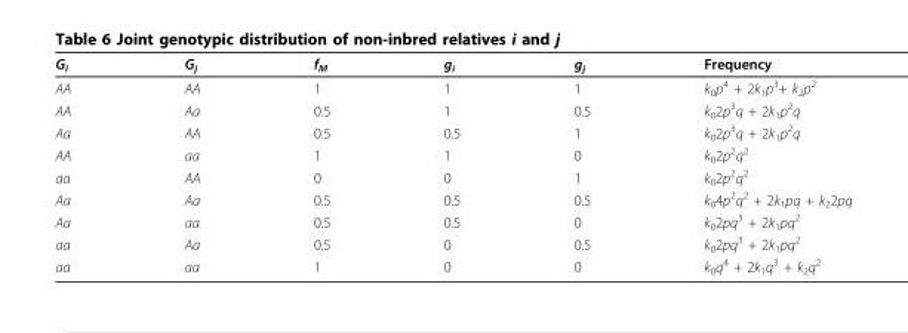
<table><thead><tr><td>G<sub>i</sub></td><td>G<sub>j</sub></td><td>f<sub>M</sub></td><td>g<sub>i</sub></td><td>g<sub>j</sub></td><td>Frequency</td></tr></thead><tbody><tr><td>AA</td><td>AA</td><td>1</td><td>1</td><td>1</td><td>k<sub>0</sub>p<sup>4</sup> + 2k<sub>1</sub>p<sup>3</sup>+ k<sub>2</sub>p<sup>2</sup></td></tr><tr><td>AA</td><td>Aa</td><td>0.5</td><td>1</td><td>0.5</td><td>k<sub>0</sub>2p<sup>3</sup>q + 2k<sub>1</sub>p<sup>2</sup>q</td></tr><tr><td>Aa</td><td>AA</td><td>0.5</td><td>0.5</td><td>1</td><td>k<sub>0</sub>2p<sup>3</sup>q + 2k<sub>1</sub>p<sup>2</sup>q</td></tr><tr><td>AA</td><td>aa</td><td>1</td><td>1</td><td>0</td><td>k<sub>0</sub>2p<sup>2</sup>q<sup>2</sup></td></tr><tr><td>aa</td><td>AA</td><td>0</td><td>0</td><td>1</td><td>k<sub>0</sub>2p<sup>2</sup>q<sup>2</sup></td></tr><tr><td>Aa</td><td>Aa</td><td>0.5</td><td>0.5</td><td>0.5</td><td>k<sub>0</sub>4p<sup>2</sup>q<sup>2</sup> + 2k<sub>1</sub>pq + k<sub>2</sub>2pq</td></tr><tr><td>Aa</td><td>aa</td><td>0.5</td><td>0.5</td><td>0</td><td>k<sub>0</sub>2pq<sup>3</sup> + 2k<sub>1</sub>pq<sup>2</sup></td></tr><tr><td>aa</td><td>Aa</td><td>0.5</td><td>0</td><td>0.5</td><td>k<sub>0</sub>2pq<sup>3</sup> + 2k<sub>1</sub>pq<sup>2</sup></td></tr><tr><td>aa</td><td>aa</td><td>1</td><td>0</td><td>0</td><td>k<sub>0</sub>q<sup>4</sup> + 2k<sub>1</sub>q<sup>3</sup> + k<sub>2</sub>q<sup>2</sup></td></tr></tbody></table>